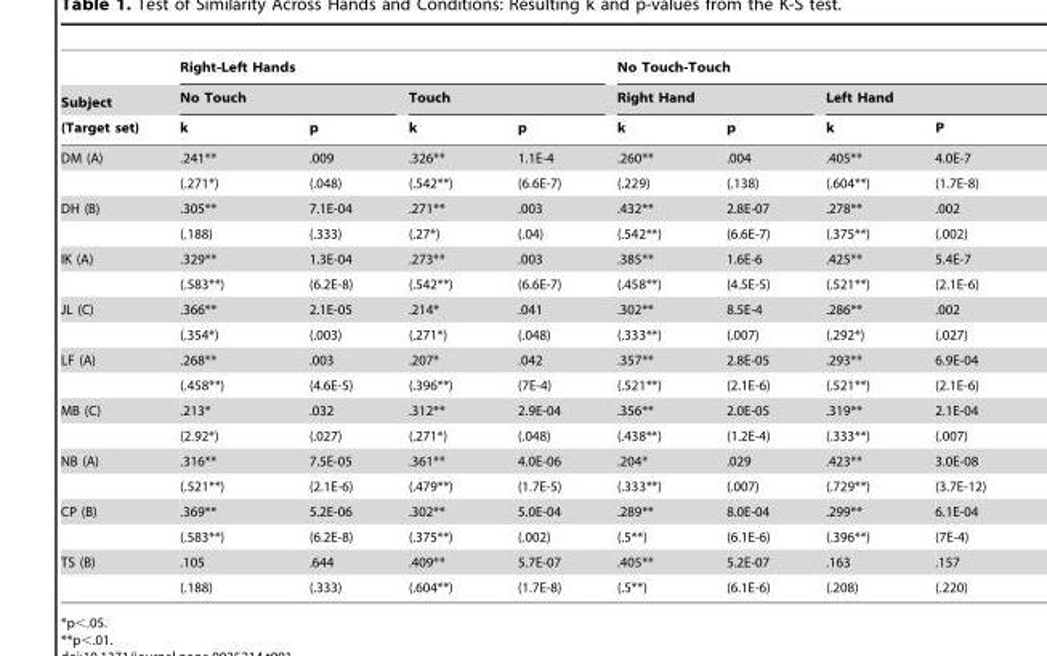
<table><thead><tr><td rowspan="3">Subject (Target set)</td><td colspan="4">Right-Left Hands</td><td colspan="4">No Touch-Touch</td></tr><tr><td colspan="2">No Touch</td><td colspan="2">Touch</td><td colspan="2">Right Hand</td><td colspan="2">Left Hand</td></tr><tr><td>k</td><td>p</td><td>k</td><td>p</td><td>k</td><td>p</td><td>k</td><td>P</td></tr></thead><tbody><tr><td rowspan="2">DM (A)</td><td>.241**</td><td>.009</td><td>.326**</td><td>1.1E-4</td><td>.260**</td><td>.004</td><td>.405**</td><td>4.0E-7</td></tr><tr><td>(.271*)</td><td>(.048)</td><td>(.542**)</td><td>(6.6E-7)</td><td>(.229)</td><td>(.138)</td><td>(.604**)</td><td>(1.7E-8)</td></tr><tr><td rowspan="2">DH (B)</td><td>.305**</td><td>7.1E-04</td><td>.271**</td><td>.003</td><td>.432**</td><td>2.8E-07</td><td>.278**</td><td>.002</td></tr><tr><td>(.188)</td><td>(.333)</td><td>(.27*)</td><td>(.04)</td><td>(.542**)</td><td>(6.6E-7)</td><td>(.375**)</td><td>(.002)</td></tr><tr><td rowspan="2">IK (A)</td><td>.329**</td><td>1.3E-04</td><td>.273**</td><td>.003</td><td>.385**</td><td>1.6E-6</td><td>.425**</td><td>5.4E-7</td></tr><tr><td>(.583**)</td><td>(6.2E-8)</td><td>(.542**)</td><td>(6.6E-7)</td><td>(.458**)</td><td>(4.5E-5)</td><td>(.521**)</td><td>(2.1E-6)</td></tr><tr><td rowspan="2">JL (C)</td><td>.366**</td><td>2.1E-05</td><td>.214*</td><td>.041</td><td>.302**</td><td>8.5E-4</td><td>.286**</td><td>.002</td></tr><tr><td>(.354*)</td><td>(.003)</td><td>(.271*)</td><td>(.048)</td><td>(.333**)</td><td>(.007)</td><td>(.292*)</td><td>(.027)</td></tr><tr><td rowspan="2">LF (A)</td><td>.268**</td><td>.003</td><td>.207*</td><td>.042</td><td>.357**</td><td>2.8E-05</td><td>.293**</td><td>6.9E-04</td></tr><tr><td>(.458**)</td><td>(4.6E-5)</td><td>(.396**)</td><td>(7E-4)</td><td>(.521**)</td><td>(2.1E-6)</td><td>(.521**)</td><td>(2.1E-6)</td></tr><tr><td rowspan="2">MB (C)</td><td>.213*</td><td>.032</td><td>.312**</td><td>2.9E-04</td><td>.356**</td><td>2.0E-05</td><td>.319**</td><td>2.1E-04</td></tr><tr><td>(2.92*)</td><td>(.027)</td><td>(.271*)</td><td>(.048)</td><td>(.438**)</td><td>(1.2E-4)</td><td>(.333**)</td><td>(.007)</td></tr><tr><td rowspan="2">NB (A)</td><td>.316**</td><td>7.5E-05</td><td>.361**</td><td>4.0E-06</td><td>.204*</td><td>.029</td><td>.423**</td><td>3.0E-08</td></tr><tr><td>(.521**)</td><td>(2.1E-6)</td><td>(.479**)</td><td>(1.7E-5)</td><td>(.333**)</td><td>(.007)</td><td>(.729**)</td><td>(3.7E-12)</td></tr><tr><td rowspan="2">CP (B)</td><td>.369**</td><td>5.2E-06</td><td>.302**</td><td>5.0E-04</td><td>.289**</td><td>8.0E-04</td><td>.299**</td><td>6.1E-04</td></tr><tr><td>(.583**)</td><td>(6.2E-8)</td><td>(.375**)</td><td>(.002)</td><td>(.5**)</td><td>(6.1E-6)</td><td>(.396**)</td><td>(7E-4)</td></tr><tr><td rowspan="2">TS (B)</td><td>.105</td><td>.644</td><td>.409**</td><td>5.7E-07</td><td>.405**</td><td>5.2E-07</td><td>.163</td><td>.157</td></tr><tr><td>(.188)</td><td>(.333)</td><td>(.604**)</td><td>(1.7E-8)</td><td>(.5**)</td><td>(6.1E-6)</td><td>(.208)</td><td>(.220)</td></tr></tbody></table>